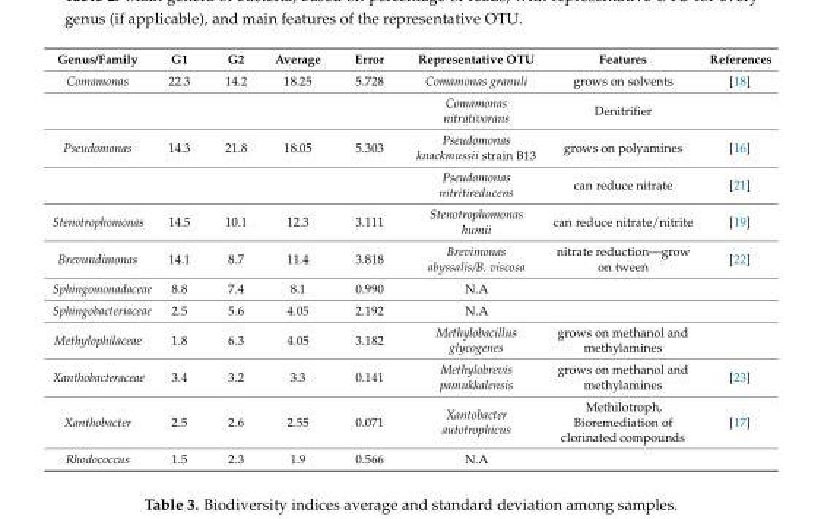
<table><thead><tr><td>Genus/Family</td><td>G1</td><td>G2</td><td>Average</td><td>Error</td><td>Representative OTU</td><td>Features</td><td>References</td></tr></thead><tbody><tr><td rowspan="2">Comamonas</td><td>22.3</td><td>14.2</td><td>18.25</td><td>5.728</td><td>Comamonas granuli</td><td>grows on solvents</td><td>[18]</td></tr><tr><td></td><td></td><td></td><td></td><td>Comamonas nitrativorans</td><td>Denitrifier</td><td></td></tr><tr><td rowspan="2">Pseudomonas</td><td>14.3</td><td>21.8</td><td>18.05</td><td>5.303</td><td>Pseudomonas knackmussii strain B13</td><td>grows on polyamines</td><td>[16]</td></tr><tr><td></td><td></td><td></td><td></td><td>Pseudomonas nitritireducens</td><td>can reduce nitrate</td><td>[21]</td></tr><tr><td>Stenotrophomonas</td><td>14.5</td><td>10.1</td><td>12.3</td><td>3.111</td><td>Stenotrophomonas humii</td><td>can reduce nitrate/nitrite</td><td>[19]</td></tr><tr><td>Brevundimonas</td><td>14.1</td><td>8.7</td><td>11.4</td><td>3.818</td><td>Brevimonas abyssalis/B. viscosa</td><td>nitrate reduction—grow on tween</td><td>[22]</td></tr><tr><td>Sphingomonadaceae</td><td>8.8</td><td>7.4</td><td>8.1</td><td>0.990</td><td>N.A</td><td></td><td></td></tr><tr><td>Sphingobacteriaceae</td><td>2.5</td><td>5.6</td><td>4.05</td><td>2.192</td><td>N.A</td><td></td><td></td></tr><tr><td>Methylophilaceae</td><td>1.8</td><td>6.3</td><td>4.05</td><td>3.182</td><td>Methylobacillus glycogenes</td><td>grows on methanol and methylamines</td><td></td></tr><tr><td>Xanthobacteraceae</td><td>3.4</td><td>3.2</td><td>3.3</td><td>0.141</td><td>Methylobrevis pamukkalensis</td><td>grows on methanol and methylamines</td><td>[23]</td></tr><tr><td>Xanthobacter</td><td>2.5</td><td>2.6</td><td>2.55</td><td>0.071</td><td>Xantobacter autotrophicus</td><td>Methilotroph, Bioremediation of clorinated compounds</td><td>[17]</td></tr><tr><td>Rhodococcus</td><td>1.5</td><td>2.3</td><td>1.9</td><td>0.566</td><td>N.A</td><td></td><td></td></tr></tbody></table>